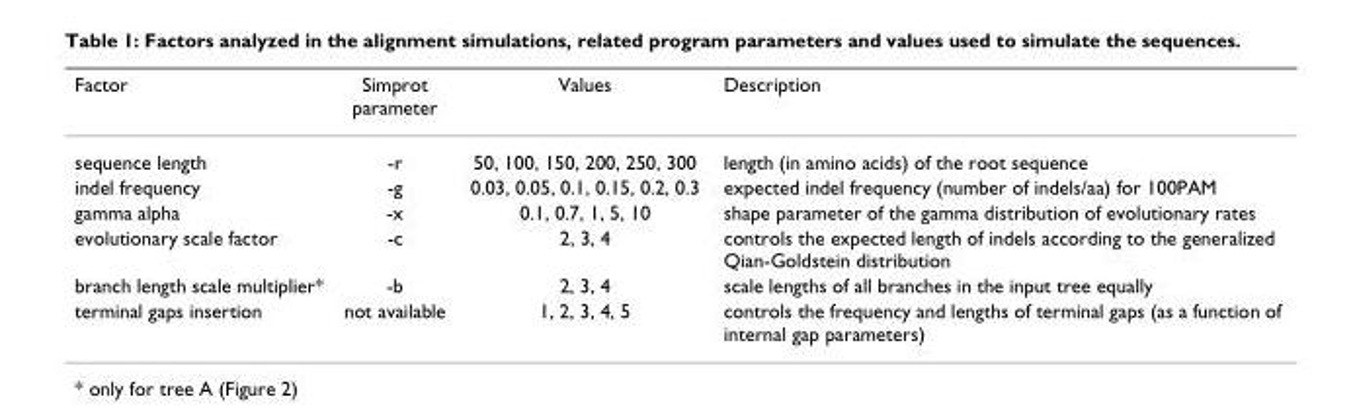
<table><thead><tr><td>Factor</td><td>Simprot parameter</td><td>Values</td><td>Description</td></tr></thead><tbody><tr><td>sequence length</td><td>-r</td><td>50, 100, 150, 200, 250, 300</td><td>length (in amino acids) of the root sequence</td></tr><tr><td>indel frequency</td><td>-g</td><td>0.03, 0.05, 0.1, 0.15, 0.2, 0.3</td><td>expected indel frequency (number of indels/aa) for 100PAM</td></tr><tr><td>gamma alpha</td><td>-x</td><td>0.1, 0.7, 1, 5, 10</td><td>shape parameter of the gamma distribution of evolutionary rates</td></tr><tr><td>evolutionary scale factor</td><td>-c</td><td>2, 3, 4</td><td>controls the expected length of indels according to the generalized Qian-Goldstein distribution</td></tr><tr><td>branch length scale multiplier*</td><td>-b</td><td>2, 3, 4</td><td>scale lengths of all branches in the input tree equally</td></tr><tr><td>terminal gaps insertion</td><td>not available</td><td>1, 2, 3, 4, 5</td><td>controls the frequency and lengths of terminal gaps (as a function of internal gap parameters)</td></tr></tbody></table>